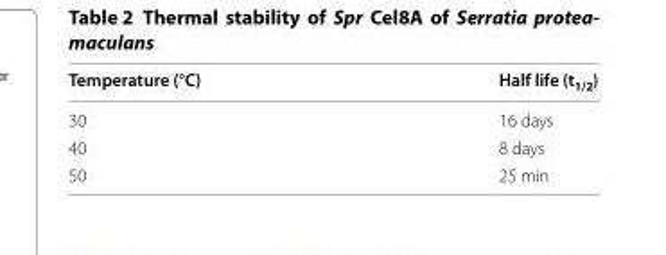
<table><thead><tr><td>Temperature (°C)</td><td>Half life (t<sub>1/2</sub>)</td></tr></thead><tbody><tr><td>30</td><td>16 days</td></tr><tr><td>40</td><td>8 days</td></tr><tr><td>50</td><td>25 min</td></tr></tbody></table>